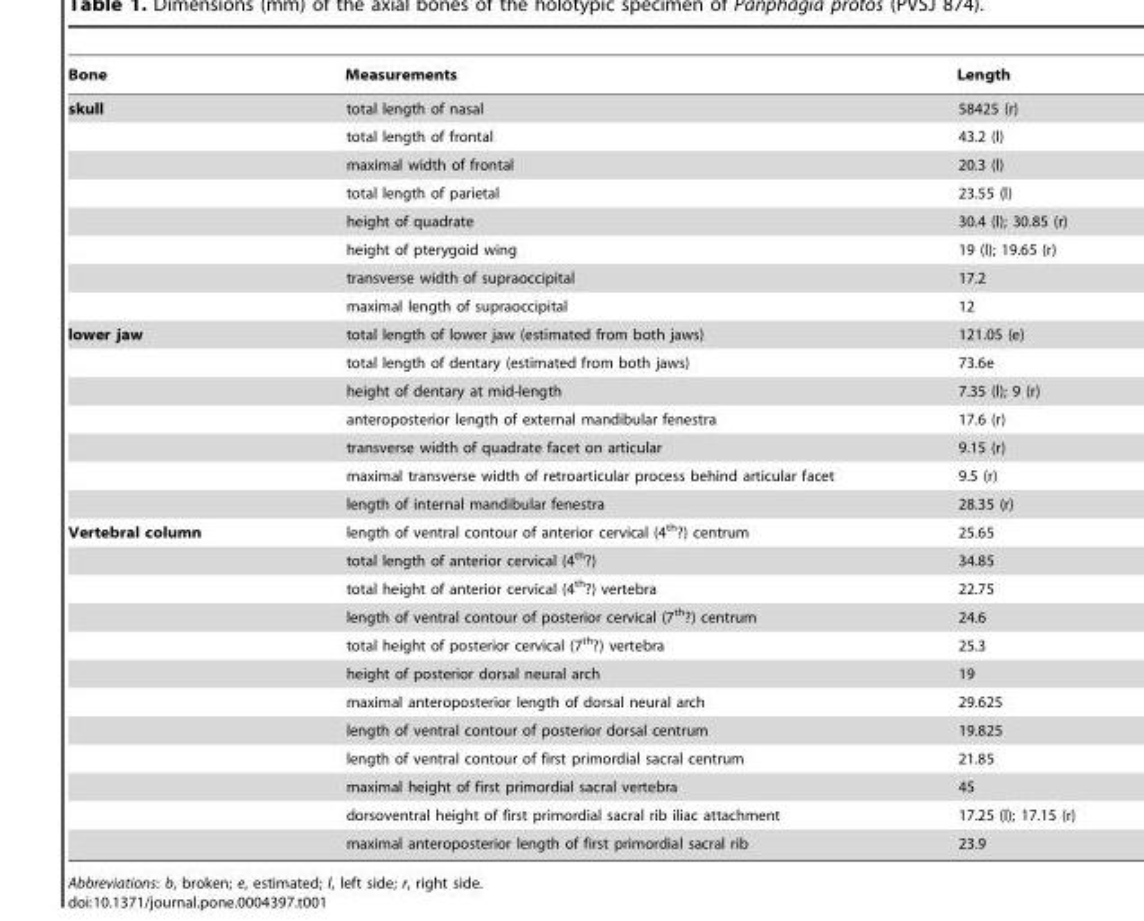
<table><thead><tr><td>Bone</td><td>Measurements</td><td>Length</td></tr></thead><tbody><tr><td rowspan="8">skull</td><td>total length of nasal</td><td>58425 (r)</td></tr><tr><td>total length of frontal</td><td>43.2 (l)</td></tr><tr><td>maximal width of frontal</td><td>20.3 (l)</td></tr><tr><td>total length of parietal</td><td>23.55 (l)</td></tr><tr><td>height of quadrate</td><td>30.4 (l); 30.85 (r)</td></tr><tr><td>height of pterygoid wing</td><td>19 (l); 19.65 (r)</td></tr><tr><td>transverse width of supraoccipital</td><td>17.2</td></tr><tr><td>maximal length of supraoccipital</td><td>12</td></tr><tr><td rowspan="7">lower jaw</td><td>total length of lower jaw (estimated from both jaws)</td><td>121.05 (e)</td></tr><tr><td>total length of dentary (estimated from both jaws)</td><td>73.6e</td></tr><tr><td>height of dentary at mid-length</td><td>7.35 (l); 9 (r)</td></tr><tr><td>anteroposterior length of external mandibular fenestra</td><td>17.6 (r)</td></tr><tr><td>transverse width of quadrate facet on articular</td><td>9.15 (r)</td></tr><tr><td>maximal transverse width of retroarticular process behind articular facet</td><td>9.5 (r)</td></tr><tr><td>length of internal mandibular fenestra</td><td>28.35 (r)</td></tr><tr><td rowspan="12">Vertebral column</td><td>length of ventral contour of anterior cervical (4<sup>th</sup>?) centrum</td><td>25.65</td></tr><tr><td>total length of anterior cervical (4<sup>th</sup>?)</td><td>34.85</td></tr><tr><td>total height of anterior cervical (4<sup>th</sup>?) vertebra</td><td>22.75</td></tr><tr><td>length of ventral contour of posterior cervical (7<sup>th</sup>?) centrum</td><td>24.6</td></tr><tr><td>total height of posterior cervical (7<sup>th</sup>?) vertebra</td><td>25.3</td></tr><tr><td>height of posterior dorsal neural arch</td><td>19</td></tr><tr><td>maximal anteroposterior length of dorsal neural arch</td><td>29.625</td></tr><tr><td>length of ventral contour of posterior dorsal centrum</td><td>19.825</td></tr><tr><td>length of ventral contour of first primordial sacral centrum</td><td>21.85</td></tr><tr><td>maximal height of first primordial sacral vertebra</td><td>45</td></tr><tr><td>dorsoventral height of first primordial sacral rib iliac attachment</td><td>17.25 (l); 17.15 (r)</td></tr><tr><td>maximal anteroposterior length of first primordial sacral rib</td><td>23.9</td></tr></tbody></table>